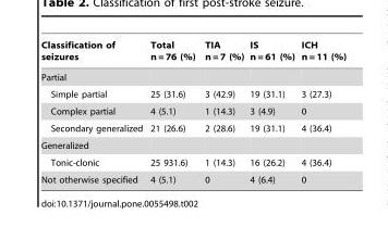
<table><thead><tr><td>Classification of seizures</td><td>Total n = 76 (%)</td><td>TIA n = 7 (%)</td><td>IS n = 61 (%)</td><td>ICH n = 11 (%)</td></tr></thead><tbody><tr><td colspan="5">Partial</td></tr><tr><td>Simple partial</td><td>25 (31.6)</td><td>3 (42.9)</td><td>19 (31.1)</td><td>3 (27.3)</td></tr><tr><td>Complex partial</td><td>4 (5.1)</td><td>1 (14.3)</td><td>3 (4.9)</td><td>0</td></tr><tr><td>Secondary generalized</td><td>21 (26.6)</td><td>2 (28.6)</td><td>19 (31.1)</td><td>4 (36.4)</td></tr><tr><td colspan="5">Generalized</td></tr><tr><td>Tonic-clonic</td><td>25 931.6)</td><td>1 (14.3)</td><td>16 (26.2)</td><td>4 (36.4)</td></tr><tr><td>Not otherwise specified</td><td>4 (5.1)</td><td>0</td><td>4 (6.4)</td><td>0</td></tr></tbody></table>